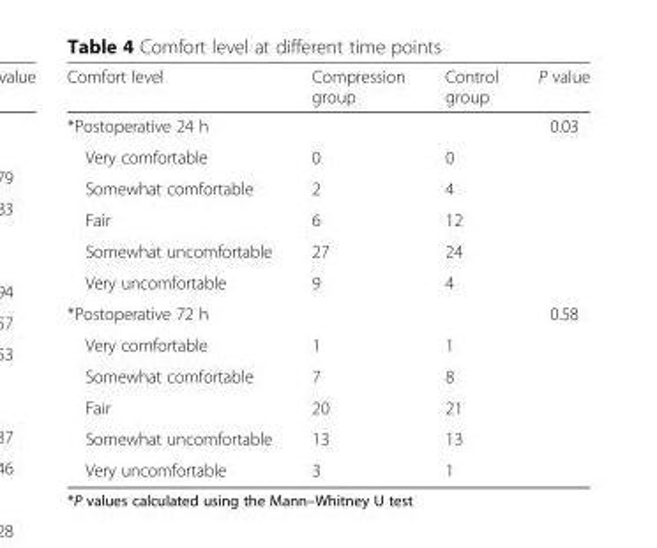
<table><thead><tr><td>Comfort level</td><td>Compression group</td><td>Control group</td><td>P value</td></tr></thead><tbody><tr><td>*Postoperative 24 h</td><td></td><td></td><td>0.03</td></tr><tr><td>Very comfortable</td><td>0</td><td>0</td><td></td></tr><tr><td>Somewhat comfortable</td><td>2</td><td>4</td><td></td></tr><tr><td>Fair</td><td>6</td><td>12</td><td></td></tr><tr><td>Somewhat uncomfortable</td><td>27</td><td>24</td><td></td></tr><tr><td>Very uncomfortable</td><td>9</td><td>4</td><td></td></tr><tr><td>*Postoperative 72 h</td><td></td><td></td><td>0.58</td></tr><tr><td>Very comfortable</td><td>1</td><td>1</td><td></td></tr><tr><td>Somewhat comfortable</td><td>7</td><td>8</td><td></td></tr><tr><td>Fair</td><td>20</td><td>21</td><td></td></tr><tr><td>Somewhat uncomfortable</td><td>13</td><td>13</td><td></td></tr><tr><td>Very uncomfortable</td><td>3</td><td>1</td><td></td></tr></tbody></table>